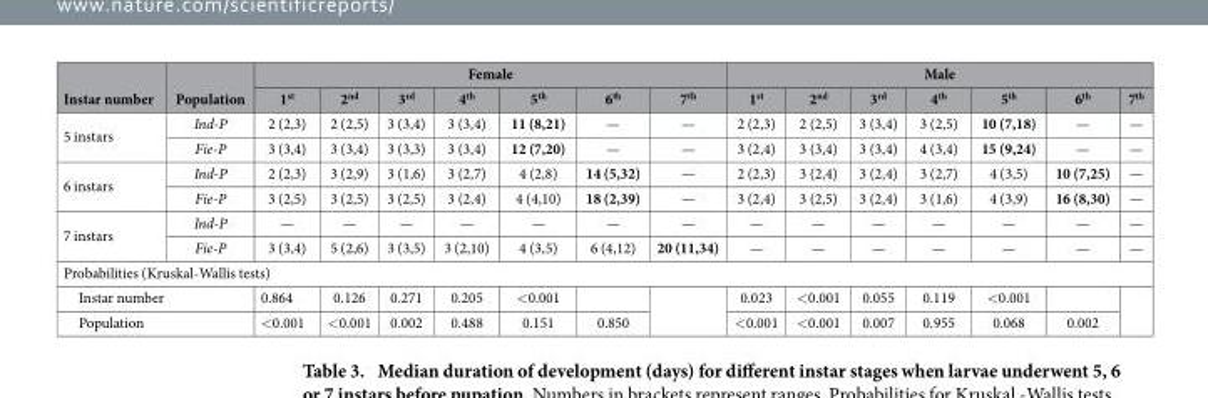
<table><thead><tr><td rowspan="2">Instar number</td><td rowspan="2">Population</td><td colspan="7">Female</td><td colspan="7">Male</td></tr><tr><td>1<sup>st</sup></td><td>2<sup>nd</sup></td><td>3<sup>rd</sup></td><td>4<sup>th</sup></td><td>5<sup>th</sup></td><td>6<sup>th</sup></td><td>7<sup>th</sup></td><td>1<sup>st</sup></td><td>2<sup>nd</sup></td><td>3<sup>rd</sup></td><td>4<sup>th</sup></td><td>5<sup>th</sup></td><td>6<sup>th</sup></td><td>7<sup>th</sup></td></tr></thead><tbody><tr><td rowspan="2">5 instars</td><td>Ind-P</td><td>2 (2,3)</td><td>2 (2,5)</td><td>3 (3,4)</td><td>3 (3,4)</td><td>11 (8,21)</td><td>—</td><td>—</td><td>2 (2,3)</td><td>2 (2,5)</td><td>3 (3,4)</td><td>3 (2,5)</td><td>10 (7,18)</td><td>—</td><td>—</td></tr><tr><td>Fie-P</td><td>3 (3,4)</td><td>3 (3,4)</td><td>3 (3,3)</td><td>3 (3,4)</td><td>12 (7,20)</td><td>—</td><td>—</td><td>3 (2,4)</td><td>3 (3,4)</td><td>3 (3,4)</td><td>4 (3,4)</td><td>15 (9,24)</td><td>—</td><td>—</td></tr><tr><td rowspan="2">6 instars</td><td>Ind-P</td><td>2 (2,3)</td><td>3 (2,9)</td><td>3 (1,6)</td><td>3 (2,7)</td><td>4 (2,8)</td><td>14 (5,32)</td><td>—</td><td>2 (2,3)</td><td>3 (2,4)</td><td>3 (2,4)</td><td>3 (2,7)</td><td>4 (3,5)</td><td>10 (7,25)</td><td>—</td></tr><tr><td>Fie-P</td><td>3 (2,5)</td><td>3 (2,5)</td><td>3 (2,5)</td><td>3 (2,4)</td><td>4 (4,10)</td><td>18 (2,39)</td><td>—</td><td>3 (2,4)</td><td>3 (2,5)</td><td>3 (2,4)</td><td>3 (1,6)</td><td>4 (3,9)</td><td>16 (8,30)</td><td>—</td></tr><tr><td rowspan="2">7 instars</td><td>Ind-P</td><td>—</td><td>—</td><td>—</td><td>—</td><td>—</td><td>—</td><td>—</td><td>—</td><td>—</td><td>—</td><td>—</td><td>—</td><td>—</td><td>—</td></tr><tr><td>Fie-P</td><td>3 (3,4)</td><td>5 (2,6)</td><td>3 (3,5)</td><td>3 (2,10)</td><td>4 (3,5)</td><td>6 (4,12)</td><td>20 (11,34)</td><td>—</td><td>—</td><td>—</td><td>—</td><td>—</td><td>—</td><td>—</td></tr><tr><td colspan="16">Probabilities (Kruskal-Wallis tests)</td></tr><tr><td colspan="2">Instar number</td><td>0.864</td><td>0.126</td><td>0.271</td><td>0.205</td><td>&lt; 0.001</td><td></td><td rowspan="2"></td><td>0.023</td><td>&lt; 0.001</td><td>0.055</td><td>0.119</td><td>&lt; 0.001</td><td></td><td rowspan="2"></td></tr><tr><td colspan="2">Population</td><td>&lt; 0.001</td><td>&lt; 0.001</td><td>0.002</td><td>0.488</td><td>0.151</td><td>0.850</td><td>&lt; 0.001</td><td>&lt; 0.001</td><td>0.007</td><td>0.955</td><td>0.068</td><td>0.002</td></tr></tbody></table>